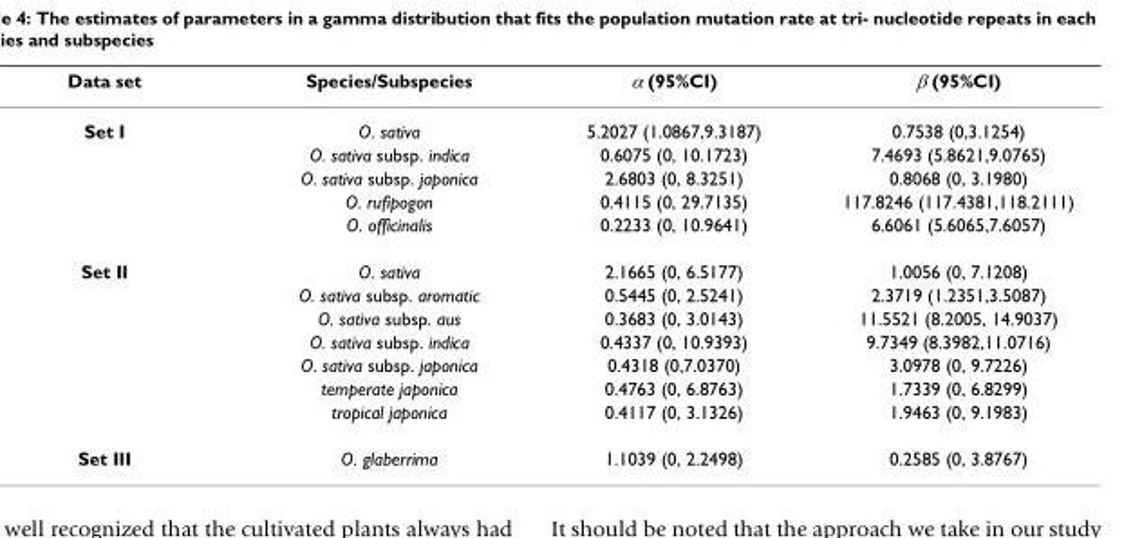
<table><thead><tr><td>Data set</td><td>Species/Subspecies</td><td>α (95%CI)</td><td>β (95%CI)</td></tr></thead><tbody><tr><td rowspan="5">Set I</td><td>O. sativa</td><td>5.2027 (1.0867,9.3187)</td><td>0.7538 (0,3.1254)</td></tr><tr><td>O. sativa subsp. indica</td><td>0.6075 (0, 10.1723)</td><td>7.4693 (5.8621,9.0765)</td></tr><tr><td>O. sativa subsp. japonica</td><td>2.6803 (0, 8.3251)</td><td>0.8068 (0, 3.1980)</td></tr><tr><td>O. rufipogon</td><td>0.4115 (0, 29.7135)</td><td>117.8246 (117.4381,118.2111)</td></tr><tr><td>O. officinalis</td><td>0.2233 (0, 10.9641)</td><td>6.6061 (5.6065,7.6057)</td></tr><tr><td rowspan="7">Set II</td><td>O. sativa</td><td>2.1665 (0, 6.5177)</td><td>1.0056 (0, 7.1208)</td></tr><tr><td>O. sativa subsp. aromatic</td><td>0.5445 (0, 2.5241)</td><td>2.3719 (1.2351,3.5087)</td></tr><tr><td>O. sativa subsp. aus</td><td>0.3683 (0, 3.0143)</td><td>11.5521 (8.2005, 14.9037)</td></tr><tr><td>O. sativa subsp. indica</td><td>0.4337 (0, 10.9393)</td><td>9.7349 (8.3982,11.0716)</td></tr><tr><td>O. sativa subsp. japonica</td><td>0.4318 (0,7.0370)</td><td>3.0978 (0, 9.7226)</td></tr><tr><td>temperate japonica</td><td>0.4763 (0, 6.8763)</td><td>1.7339 (0, 6.8299)</td></tr><tr><td>tropical japonica</td><td>0.4117 (0, 3.1326)</td><td>1.9463 (0, 9.1983)</td></tr><tr><td>Set III</td><td>O. glaberrima</td><td>1.1039 (0, 2.2498)</td><td>0.2585 (0, 3.8767)</td></tr></tbody></table>